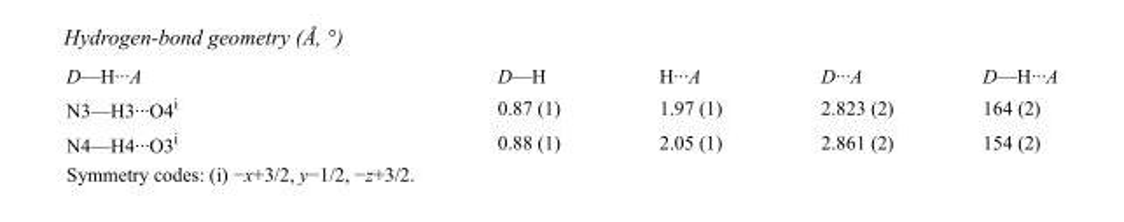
<table><tbody><tr><td>D—H···A</td><td>D—H</td><td>H···A</td><td>D···A</td><td>D—H···A</td></tr><tr><td>N3—H3···O4<sup>i</sup></td><td>0.87 (1)</td><td>1.97 (1)</td><td>2.823 (2)</td><td>164 (2)</td></tr><tr><td>N4—H4···O3<sup>i</sup></td><td>0.88 (1)</td><td>2.05 (1)</td><td>2.861 (2)</td><td>154 (2)</td></tr></tbody></table>